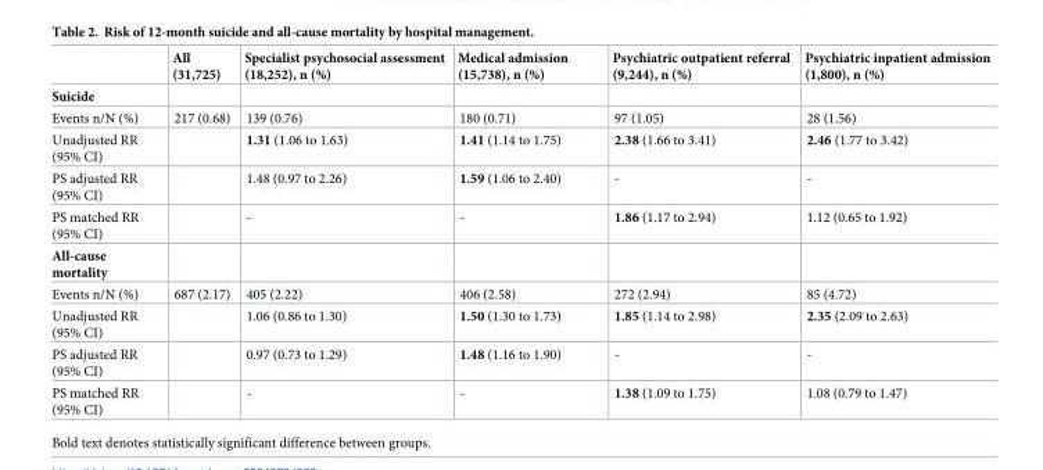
<table><thead><tr><td></td><td>All (31,725)</td><td>Specialist psychosocial assessment (18,252), n (%)</td><td>Medical admission (15,738), n (%)</td><td>Psychiatric outpatient referral (9,244), n (%)</td><td>Psychiatric inpatient admission (1,800), n (%)</td></tr></thead><tbody><tr><td colspan="6">Suicide</td></tr><tr><td>Events n/N (%)</td><td>217 (0.68)</td><td>139 (0.76)</td><td>180 (0.71)</td><td>97 (1.05)</td><td>28 (1.56)</td></tr><tr><td>Unadjusted RR (95% CI)</td><td></td><td>1.31 (1.06 to 1.63)</td><td>1.41 (1.14 to 1.75)</td><td>2.38 (1.66 to 3.41)</td><td>2.46 (1.77 to 3.42)</td></tr><tr><td>PS adjusted RR (95% CI)</td><td></td><td>1.48 (0.97 to 2.26)</td><td>1.59 (1.06 to 2.40)</td><td>-</td><td>-</td></tr><tr><td>PS matched RR (95% CI)</td><td></td><td>-</td><td>-</td><td>1.86 (1.17 to 2.94)</td><td>1.12 (0.65 to 1.92)</td></tr><tr><td colspan="6">All-cause mortality</td></tr><tr><td>Events n/N (%)</td><td>687 (2.17)</td><td>405 (2.22)</td><td>406 (2.58)</td><td>272 (2.94)</td><td>85 (4.72)</td></tr><tr><td>Unadjusted RR (95% CI)</td><td></td><td>1.06 (0.86 to 1.30)</td><td>1.50 (1.30 to 1.73)</td><td>1.85 (1.14 to 2.98)</td><td>2.35 (2.09 to 2.63)</td></tr><tr><td>PS adjusted RR (95% CI)</td><td></td><td>0.97 (0.73 to 1.29)</td><td>1.48 (1.16 to 1.90)</td><td>-</td><td>-</td></tr><tr><td>PS matched RR (95% CI)</td><td></td><td>-</td><td>-</td><td>1.38 (1.09 to 1.75)</td><td>1.08 (0.79 to 1.47)</td></tr></tbody></table>